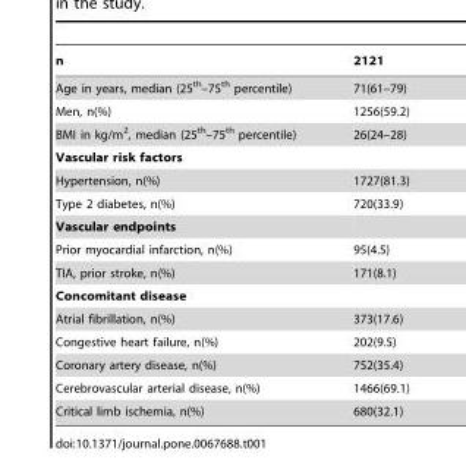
<table><thead><tr><td>n</td><td>2121</td></tr></thead><tbody><tr><td>Age in years, median (25<sup>th</sup>–75<sup>th</sup> percentile)</td><td>71(61–79)</td></tr><tr><td>Men, n(%)</td><td>1256(59.2)</td></tr><tr><td>BMI in kg/m<sup>2</sup>, median (25<sup>th</sup>–75<sup>th</sup> percentile)</td><td>26(24–28)</td></tr><tr><td colspan="2">Vascular risk factors</td></tr><tr><td>Hypertension, n(%)</td><td>1727(81.3)</td></tr><tr><td>Type 2 diabetes, n(%)</td><td>720(33.9)</td></tr><tr><td colspan="2">Vascular endpoints</td></tr><tr><td>Prior myocardial infarction, n(%)</td><td>95(4.5)</td></tr><tr><td>TIA, prior stroke, n(%)</td><td>171(8.1)</td></tr><tr><td colspan="2">Concomitant disease</td></tr><tr><td>Atrial fibrillation, n(%)</td><td>373(17.6)</td></tr><tr><td>Congestive heart failure, n(%)</td><td>202(9.5)</td></tr><tr><td>Coronary artery disease, n(%)</td><td>752(35.4)</td></tr><tr><td>Cerebrovascular arterial disease, n(%)</td><td>1466(69.1)</td></tr><tr><td>Critical limb ischemia, n(%)</td><td>680(32.1)</td></tr></tbody></table>